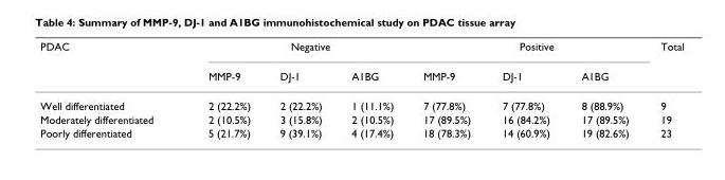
<table><thead><tr><td rowspan="2">PDAC</td><td colspan="3">Negative</td><td colspan="3">Positive</td><td rowspan="2">Total</td></tr><tr><td>MMP-9</td><td>DJ-1</td><td>A1BG</td><td>MMP-9</td><td>DJ-1</td><td>A1BG</td></tr></thead><tbody><tr><td>Well differentiated</td><td>2 (22.2%)</td><td>2 (22.2%)</td><td>1 (11.1%)</td><td>7 (77.8%)</td><td>7 (77.8%)</td><td>8 (88.9%)</td><td>9</td></tr><tr><td>Moderately differentiated</td><td>2 (10.5%)</td><td>3 (15.8%)</td><td>2 (10.5%)</td><td>17 (89.5%)</td><td>16 (84.2%)</td><td>17 (89.5%)</td><td>19</td></tr><tr><td>Poorly differentiated</td><td>5 (21.7%)</td><td>9 (39.1%)</td><td>4 (17.4%)</td><td>18 (78.3%)</td><td>14 (60.9%)</td><td>19 (82.6%)</td><td>23</td></tr></tbody></table>